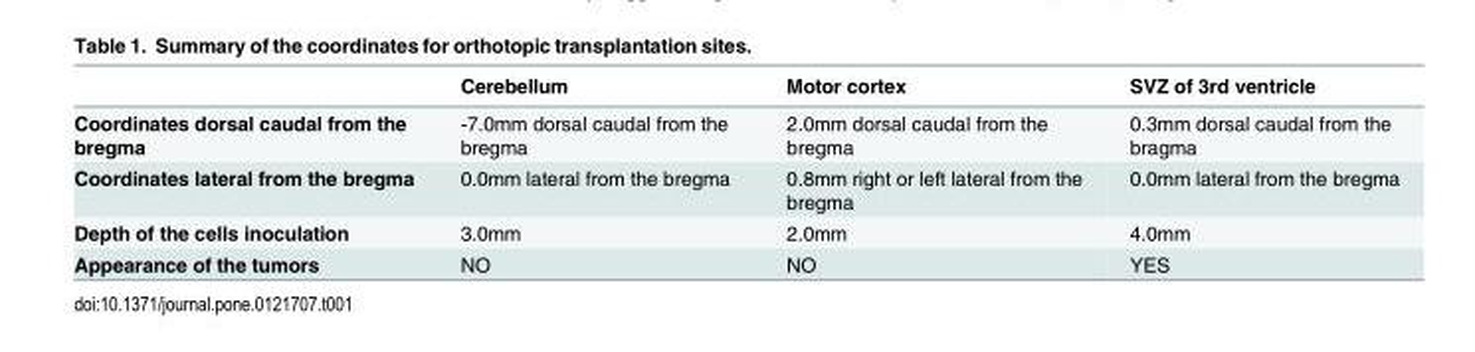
<table><thead><tr><td></td><td>Cerebellum</td><td>Motor cortex</td><td>SVZ of 3rd ventricle</td></tr></thead><tbody><tr><td>Coordinates dorsal caudal from the bregma</td><td>-7.0mm dorsal caudal from the bregma</td><td>2.0mm dorsal caudal from the bregma</td><td>0.3mm dorsal caudal from the bragma</td></tr><tr><td>Coordinates lateral from the bregma</td><td>0.0mm lateral from the bregma</td><td>0.8mm right or left lateral from the bregma</td><td>0.0mm lateral from the bregma</td></tr><tr><td>Depth of the cells inoculation</td><td>3.0mm</td><td>2.0mm</td><td>4.0mm</td></tr><tr><td>Appearance of the tumors</td><td>NO</td><td>NO</td><td>YES</td></tr></tbody></table>